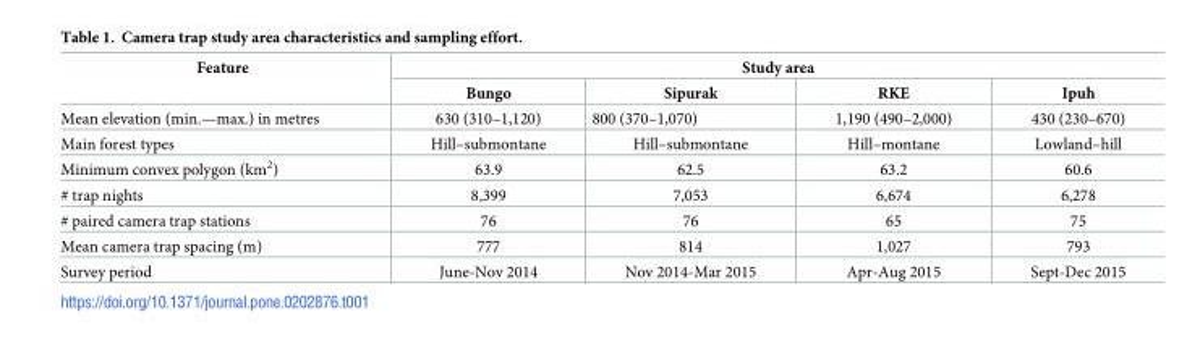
<table><thead><tr><td rowspan="2">Feature</td><td colspan="4">Study area</td></tr><tr><td>Bungo</td><td>Sipurak</td><td>RKE</td><td>Ipuh</td></tr></thead><tbody><tr><td>Mean elevation (min.—max.) in metres</td><td>630 (310–1,120)</td><td>800 (370–1,070)</td><td>1,190 (490–2,000)</td><td>430 (230–670)</td></tr><tr><td>Main forest types</td><td>Hill–submontane</td><td>Hill–submontane</td><td>Hill–montane</td><td>Lowland–hill</td></tr><tr><td>Minimum convex polygon (km<sup>2</sup>)</td><td>63.9</td><td>62.5</td><td>63.2</td><td>60.6</td></tr><tr><td># trap nights</td><td>8,399</td><td>7,053</td><td>6,674</td><td>6,278</td></tr><tr><td># paired camera trap stations</td><td>76</td><td>76</td><td>65</td><td>75</td></tr><tr><td>Mean camera trap spacing (m)</td><td>777</td><td>814</td><td>1,027</td><td>793</td></tr><tr><td>Survey period</td><td>June-Nov 2014</td><td>Nov 2014-Mar 2015</td><td>Apr-Aug 2015</td><td>Sept-Dec 2015</td></tr></tbody></table>